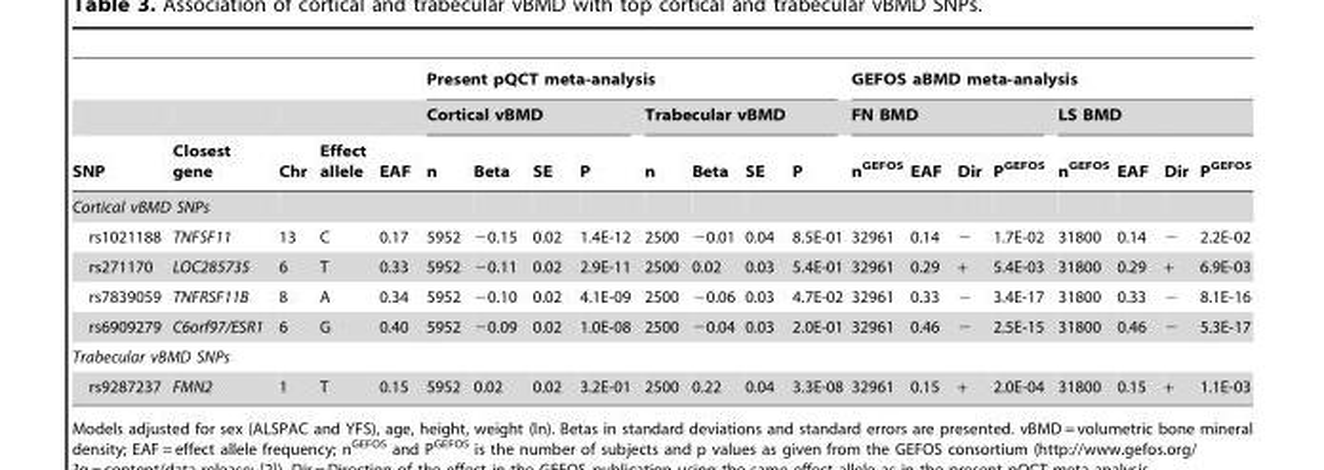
<table><thead><tr><td rowspan="3">SNP</td><td rowspan="3">Closest gene</td><td rowspan="3">Chr</td><td rowspan="3">Effect allele</td><td rowspan="3">EAF</td><td colspan="8">Present pQCT meta-analysis</td><td colspan="8">GEFOS aBMD meta-analysis</td></tr><tr><td colspan="4">Cortical vBMD</td><td colspan="4">Trabecular vBMD</td><td colspan="4">FN BMD</td><td colspan="4">LS BMD</td></tr><tr><td>n</td><td>Beta</td><td>SE</td><td>P</td><td>n</td><td>Beta</td><td>SE</td><td>P</td><td>n<sup>GEFOS</sup></td><td>EAF</td><td>Dir</td><td>P<sup>GEFOS</sup></td><td>n<sup>GEFOS</sup></td><td>EAF</td><td>Dir</td><td>P<sup>GEFOS</sup></td></tr></thead><tbody><tr><td colspan="21">Cortical vBMD SNPs</td></tr><tr><td>rs1021188</td><td>TNFSF11</td><td>13</td><td>C</td><td>0.17</td><td>5952</td><td>−0.15</td><td>0.02</td><td>1.4E-12</td><td>2500</td><td>−0.01</td><td>0.04</td><td>8.5E-01</td><td>32961</td><td>0.14</td><td>−</td><td>1.7E-02</td><td>31800</td><td>0.14</td><td>−</td><td>2.2E-02</td></tr><tr><td>rs271170</td><td>LOC285735</td><td>6</td><td>T</td><td>0.33</td><td>5952</td><td>−0.11</td><td>0.02</td><td>2.9E-11</td><td>2500</td><td>0.02</td><td>0.03</td><td>5.4E-01</td><td>32961</td><td>0.29</td><td>+</td><td>5.4E-03</td><td>31800</td><td>0.29</td><td>+</td><td>6.9E-03</td></tr><tr><td>rs7839059</td><td>TNFRSF11B</td><td>8</td><td>A</td><td>0.34</td><td>5952</td><td>−0.10</td><td>0.02</td><td>4.1E-09</td><td>2500</td><td>−0.06</td><td>0.03</td><td>4.7E-02</td><td>32961</td><td>0.33</td><td>−</td><td>3.4E-17</td><td>31800</td><td>0.33</td><td>−</td><td>8.1E-16</td></tr><tr><td>rs6909279</td><td>C6orf97/ESR1</td><td>6</td><td>G</td><td>0.40</td><td>5952</td><td>−0.09</td><td>0.02</td><td>1.0E-08</td><td>2500</td><td>−0.04</td><td>0.03</td><td>2.0E-01</td><td>32961</td><td>0.46</td><td>−</td><td>2.5E-15</td><td>31800</td><td>0.46</td><td>−</td><td>5.3E-17</td></tr><tr><td colspan="21">Trabecular vBMD SNPs</td></tr><tr><td>rs9287237</td><td>FMN2</td><td>1</td><td>T</td><td>0.15</td><td>5952</td><td>0.02</td><td>0.02</td><td>3.2E-01</td><td>2500</td><td>0.22</td><td>0.04</td><td>3.3E-08</td><td>32961</td><td>0.15</td><td>+</td><td>2.0E-04</td><td>31800</td><td>0.15</td><td>+</td><td>1.1E-03</td></tr></tbody></table>